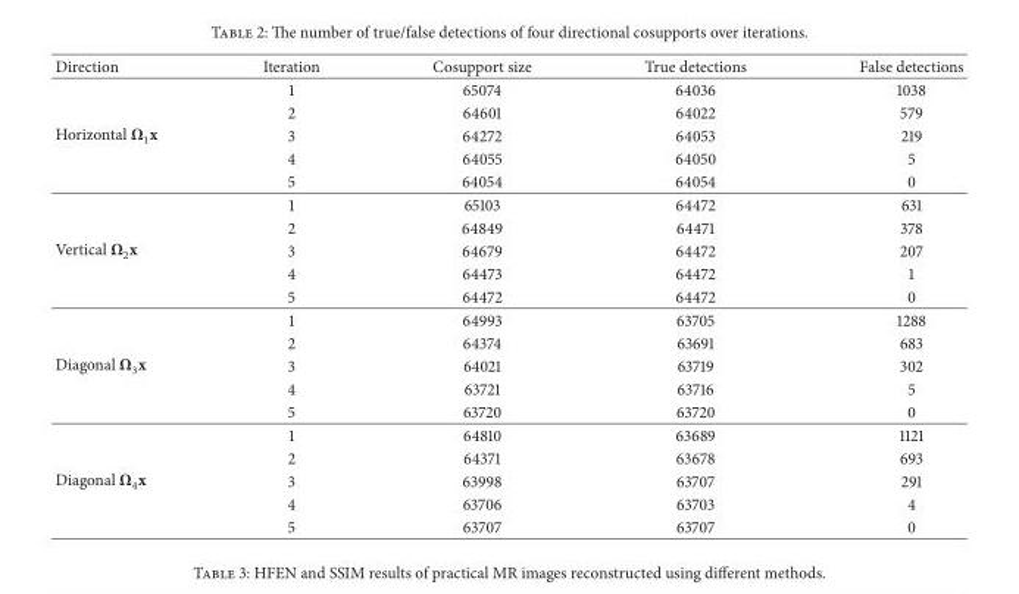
<table><thead><tr><td>Direction</td><td>Iteration</td><td>Cosupport size</td><td>True detections</td><td>False detections</td></tr></thead><tbody><tr><td rowspan="5">Horizontal Ω<sub>1</sub>x</td><td>1</td><td>65074</td><td>64036</td><td>1038</td></tr><tr><td>2</td><td>64601</td><td>64022</td><td>579</td></tr><tr><td>3</td><td>64272</td><td>64053</td><td>219</td></tr><tr><td>4</td><td>64055</td><td>64050</td><td>5</td></tr><tr><td>5</td><td>64054</td><td>64054</td><td>0</td></tr><tr><td rowspan="5">Vertical Ω<sub>2</sub>x</td><td>1</td><td>65103</td><td>64472</td><td>631</td></tr><tr><td>2</td><td>64849</td><td>64471</td><td>378</td></tr><tr><td>3</td><td>64679</td><td>64472</td><td>207</td></tr><tr><td>4</td><td>64473</td><td>64472</td><td>1</td></tr><tr><td>5</td><td>64472</td><td>64472</td><td>0</td></tr><tr><td rowspan="5">Diagonal Ω<sub>3</sub>x</td><td>1</td><td>64993</td><td>63705</td><td>1288</td></tr><tr><td>2</td><td>64374</td><td>63691</td><td>683</td></tr><tr><td>3</td><td>64021</td><td>63719</td><td>302</td></tr><tr><td>4</td><td>63721</td><td>63716</td><td>5</td></tr><tr><td>5</td><td>63720</td><td>63720</td><td>0</td></tr><tr><td rowspan="5">Diagonal Ω<sub>4</sub>x</td><td>1</td><td>64810</td><td>63689</td><td>1121</td></tr><tr><td>2</td><td>64371</td><td>63678</td><td>693</td></tr><tr><td>3</td><td>63998</td><td>63707</td><td>291</td></tr><tr><td>4</td><td>63706</td><td>63703</td><td>4</td></tr><tr><td>5</td><td>63707</td><td>63707</td><td>0</td></tr></tbody></table>